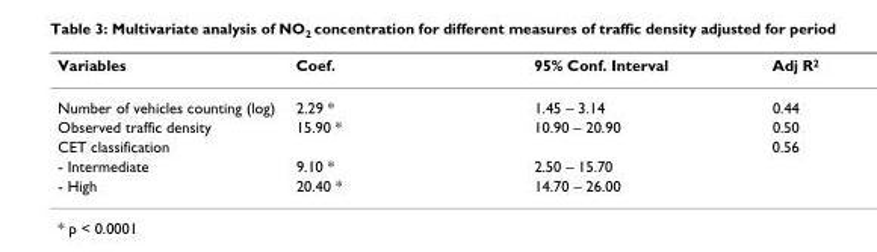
<table><thead><tr><td>Variables</td><td>Coef.</td><td>95% Conf. Interval</td><td>Adj R<sup>2</sup></td></tr></thead><tbody><tr><td>Number of vehicles counting (log)</td><td>2.29 *</td><td>1.45 – 3.14</td><td>0.44</td></tr><tr><td>Observed traffic density</td><td>15.90 *</td><td>10.90 – 20.90</td><td>0.50</td></tr><tr><td>CET classification</td><td></td><td></td><td>0.56</td></tr><tr><td>- Intermediate</td><td>9.10 *</td><td>2.50 – 15.70</td><td></td></tr><tr><td>- High</td><td>20.40 *</td><td>14.70 – 26.00</td><td></td></tr></tbody></table>